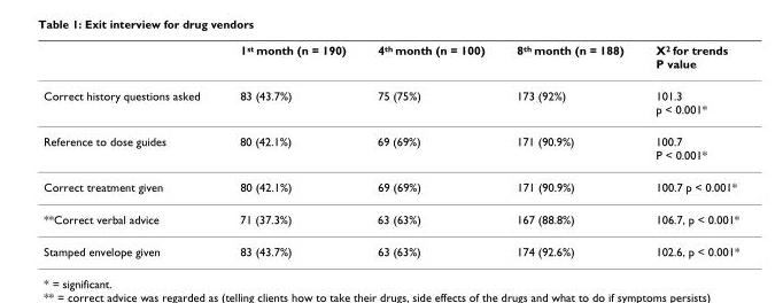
<table><thead><tr><td></td><td>1<sup>st</sup> month (n = 190)</td><td>4<sup>th</sup> month (n = 100)</td><td>8<sup>th</sup> month (n = 188)</td><td>X<sup>2</sup> for trends P value</td></tr></thead><tbody><tr><td>Correct history questions asked</td><td>83 (43.7%)</td><td>75 (75%)</td><td>173 (92%)</td><td>101.3 p &lt; 0.001*</td></tr><tr><td>Reference to dose guides</td><td>80 (42.1%)</td><td>69 (69%)</td><td>171 (90.9%)</td><td>100.7 P &lt; 0.001*</td></tr><tr><td>Correct treatment given</td><td>80 (42.1%)</td><td>69 (69%)</td><td>171 (90.9%)</td><td>100.7 p &lt; 0.001*</td></tr><tr><td>**Correct verbal advice</td><td>71 (37.3%)</td><td>63 (63%)</td><td>167 (88.8%)</td><td>106.7, p &lt; 0.001*</td></tr><tr><td>Stamped envelope given</td><td>83 (43.7%)</td><td>63 (63%)</td><td>174 (92.6%)</td><td>102.6, p &lt; 0.001*</td></tr></tbody></table>